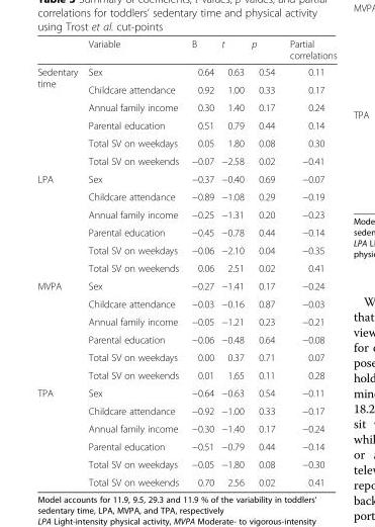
<table><thead><tr><td></td><td>Variable</td><td>B</td><td>t</td><td>p</td><td>Partial correlations</td></tr></thead><tbody><tr><td rowspan="6">Sedentary time</td><td>Sex</td><td>0.64</td><td>0.63</td><td>0.54</td><td>0.11</td></tr><tr><td>Childcare attendance</td><td>0.92</td><td>1.00</td><td>0.33</td><td>0.17</td></tr><tr><td>Annual family income</td><td>0.30</td><td>1.40</td><td>0.17</td><td>0.24</td></tr><tr><td>Parental education</td><td>0.51</td><td>0.79</td><td>0.44</td><td>0.14</td></tr><tr><td>Total SV on weekdays</td><td>0.05</td><td>1.80</td><td>0.08</td><td>0.30</td></tr><tr><td>Total SV on weekends</td><td>−0.07</td><td>−2.58</td><td>0.02</td><td>−0.41</td></tr><tr><td rowspan="6">LPA</td><td>Sex</td><td>−0.37</td><td>−0.40</td><td>0.69</td><td>−0.07</td></tr><tr><td>Childcare attendance</td><td>−0.89</td><td>−1.08</td><td>0.29</td><td>−0.19</td></tr><tr><td>Annual family income</td><td>−0.25</td><td>−1.31</td><td>0.20</td><td>−0.23</td></tr><tr><td>Parental education</td><td>−0.45</td><td>−0.78</td><td>0.44</td><td>−0.14</td></tr><tr><td>Total SV on weekdays</td><td>−0.06</td><td>−2.10</td><td>0.04</td><td>−0.35</td></tr><tr><td>Total SV on weekends</td><td>0.06</td><td>2.51</td><td>0.02</td><td>0.41</td></tr><tr><td rowspan="6">MVPA</td><td>Sex</td><td>−0.27</td><td>−1.41</td><td>0.17</td><td>−0.24</td></tr><tr><td>Childcare attendance</td><td>−0.03</td><td>−0.16</td><td>0.87</td><td>−0.03</td></tr><tr><td>Annual family income</td><td>−0.05</td><td>−1.21</td><td>0.23</td><td>−0.21</td></tr><tr><td>Parental education</td><td>−0.06</td><td>−0.48</td><td>0.64</td><td>−0.08</td></tr><tr><td>Total SV on weekdays</td><td>0.00</td><td>0.37</td><td>0.71</td><td>0.07</td></tr><tr><td>Total SV on weekends</td><td>0.01</td><td>1.65</td><td>0.11</td><td>0.28</td></tr><tr><td rowspan="6">TPA</td><td>Sex</td><td>−0.64</td><td>−0.63</td><td>0.54</td><td>−0.11</td></tr><tr><td>Childcare attendance</td><td>−0.92</td><td>−1.00</td><td>0.33</td><td>−0.17</td></tr><tr><td>Annual family income</td><td>−0.30</td><td>−1.40</td><td>0.17</td><td>−0.24</td></tr><tr><td>Parental education</td><td>−0.51</td><td>−0.79</td><td>0.44</td><td>−0.14</td></tr><tr><td>Total SV on weekdays</td><td>−0.05</td><td>−1.80</td><td>0.08</td><td>−0.30</td></tr><tr><td>Total SV on weekends</td><td>0.70</td><td>2.56</td><td>0.02</td><td>0.41</td></tr></tbody></table>